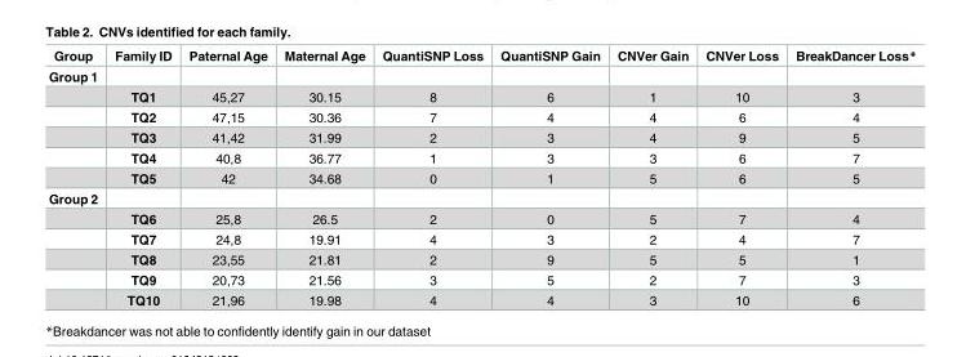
<table><thead><tr><td>Group</td><td>Family ID</td><td>Paternal Age</td><td>Maternal Age</td><td>QuantiSNP Loss</td><td>QuantiSNP Gain</td><td>CNVer Gain</td><td>CNVer Loss</td><td>BreakDancer Loss*</td></tr></thead><tbody><tr><td colspan="9">Group 1</td></tr><tr><td></td><td>TQ1</td><td>45,27</td><td>30.15</td><td>8</td><td>6</td><td>1</td><td>10</td><td>3</td></tr><tr><td></td><td>TQ2</td><td>47,15</td><td>30.36</td><td>7</td><td>4</td><td>4</td><td>6</td><td>4</td></tr><tr><td></td><td>TQ3</td><td>41,42</td><td>31.99</td><td>2</td><td>3</td><td>4</td><td>9</td><td>5</td></tr><tr><td></td><td>TQ4</td><td>40,8</td><td>36.77</td><td>1</td><td>3</td><td>3</td><td>6</td><td>7</td></tr><tr><td></td><td>TQ5</td><td>42</td><td>34.68</td><td>0</td><td>1</td><td>5</td><td>6</td><td>5</td></tr><tr><td colspan="9">Group 2</td></tr><tr><td></td><td>TQ6</td><td>25,8</td><td>26.5</td><td>2</td><td>0</td><td>5</td><td>7</td><td>4</td></tr><tr><td></td><td>TQ7</td><td>24,8</td><td>19.91</td><td>4</td><td>3</td><td>2</td><td>4</td><td>7</td></tr><tr><td></td><td>TQ8</td><td>23,55</td><td>21.81</td><td>2</td><td>9</td><td>5</td><td>5</td><td>1</td></tr><tr><td></td><td>TQ9</td><td>20,73</td><td>21.56</td><td>3</td><td>5</td><td>2</td><td>7</td><td>3</td></tr><tr><td></td><td>TQ10</td><td>21,96</td><td>19.98</td><td>4</td><td>4</td><td>3</td><td>10</td><td>6</td></tr></tbody></table>